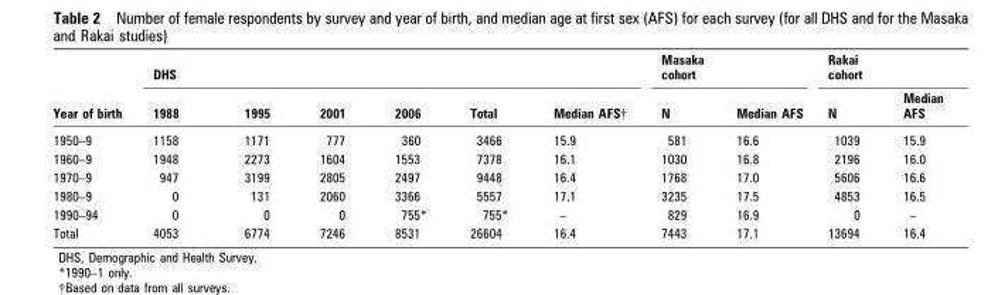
<table><thead><tr><td rowspan="2">Year of birth</td><td colspan="6">DHS</td><td colspan="2">Masaka cohort</td><td colspan="2">Rakai cohort</td></tr><tr><td>1988</td><td>1995</td><td>2001</td><td>2006</td><td>Total</td><td>Median AFS†</td><td>N</td><td>Median AFS</td><td>N</td><td>Median AFS</td></tr></thead><tbody><tr><td>1950–9</td><td>1158</td><td>1171</td><td>777</td><td>360</td><td>3466</td><td>15.9</td><td>581</td><td>16.6</td><td>1039</td><td>15.9</td></tr><tr><td>1960–9</td><td>1948</td><td>2273</td><td>1604</td><td>1553</td><td>7378</td><td>16.1</td><td>1030</td><td>16.8</td><td>2196</td><td>16.0</td></tr><tr><td>1970–9</td><td>947</td><td>3199</td><td>2805</td><td>2497</td><td>9448</td><td>16.4</td><td>1768</td><td>17.0</td><td>5606</td><td>16.6</td></tr><tr><td>1980–9</td><td>0</td><td>131</td><td>2060</td><td>3366</td><td>5557</td><td>17.1</td><td>3235</td><td>17.5</td><td>4853</td><td>16.5</td></tr><tr><td>1990–94</td><td>0</td><td>0</td><td>0</td><td>755*</td><td>755*</td><td>–</td><td>829</td><td>16.9</td><td>0</td><td>–</td></tr><tr><td>Total</td><td>4053</td><td>6774</td><td>7246</td><td>8531</td><td>26604</td><td>16.4</td><td>7443</td><td>17.1</td><td>13694</td><td>16.4</td></tr></tbody></table>